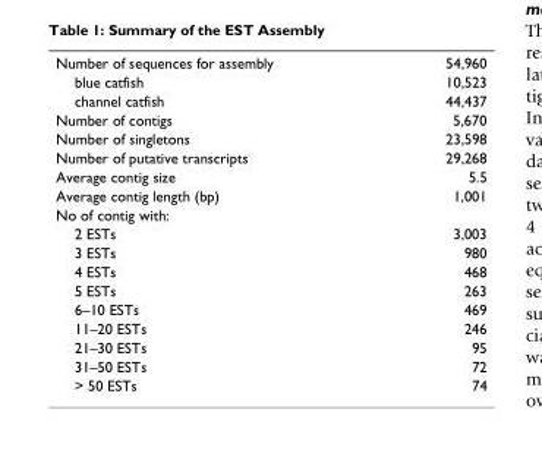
<table><tbody><tr><td>Number of sequences for assembly</td><td>54,960</td></tr><tr><td>blue catfish</td><td>10,523</td></tr><tr><td>channel catfish</td><td>44,437</td></tr><tr><td>Number of contigs</td><td>5,670</td></tr><tr><td>Number of singletons</td><td>23,598</td></tr><tr><td>Number of putative transcripts</td><td>29,268</td></tr><tr><td>Average contig size</td><td>5.5</td></tr><tr><td>Average contig length (bp)</td><td>1,001</td></tr><tr><td colspan="2">No of contig with:</td></tr><tr><td>2 ESTs</td><td>3,003</td></tr><tr><td>3 ESTs</td><td>980</td></tr><tr><td>4 ESTs</td><td>468</td></tr><tr><td>5 ESTs</td><td>263</td></tr><tr><td>6–10 ESTs</td><td>469</td></tr><tr><td>11–20 ESTs</td><td>246</td></tr><tr><td>21–30 ESTs</td><td>95</td></tr><tr><td>31–50 ESTs</td><td>72</td></tr><tr><td>&gt; 50 ESTs</td><td>74</td></tr></tbody></table>